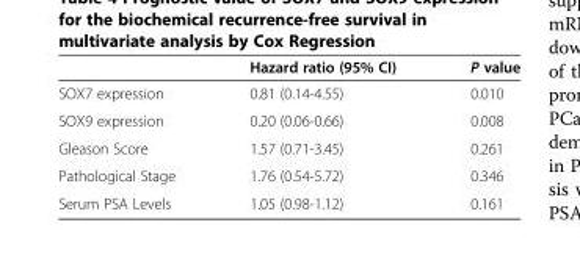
<table><thead><tr><td></td><td>Hazard ratio (95% CI)</td><td>P value</td></tr></thead><tbody><tr><td>SOX7 expression</td><td>0.81 (0.14-4.55)</td><td>0.010</td></tr><tr><td>SOX9 expression</td><td>0.20 (0.06-0.66)</td><td>0.008</td></tr><tr><td>Gleason Score</td><td>1.57 (0.71-3.45)</td><td>0.261</td></tr><tr><td>Pathological Stage</td><td>1.76 (0.54-5.72)</td><td>0.346</td></tr><tr><td>Serum PSA Levels</td><td>1.05 (0.98-1.12)</td><td>0.161</td></tr></tbody></table>